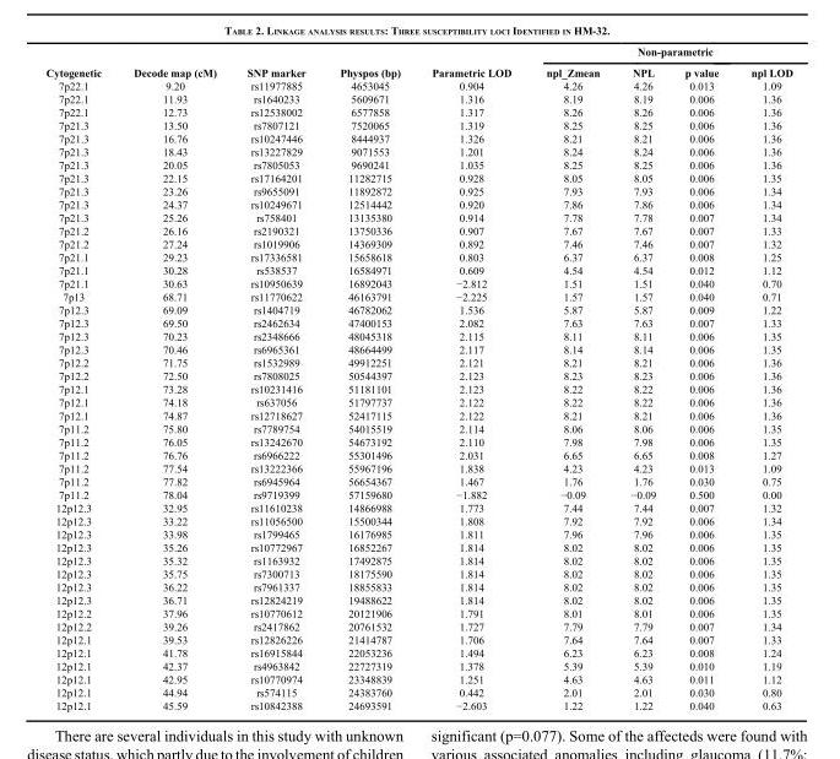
<table><thead><tr><td rowspan="2">Cytogenetic</td><td rowspan="2">Decode map (cM)</td><td rowspan="2">SNP marker</td><td rowspan="2">Physpos (bp)</td><td rowspan="2">Parametric LOD</td><td colspan="4">Non-parametric</td></tr><tr><td>npl_Zmean</td><td>NPL</td><td>p value</td><td>npl LOD</td></tr></thead><tbody><tr><td>7p22.1</td><td>9.20</td><td>rs11977885</td><td>4653045</td><td>0.904</td><td>4.26</td><td>4.26</td><td>0.013</td><td>1.09</td></tr><tr><td>7p22.1</td><td>11.93</td><td>rs1640233</td><td>5609671</td><td>1.316</td><td>8.19</td><td>8.19</td><td>0.006</td><td>1.36</td></tr><tr><td>7p22.1</td><td>12.73</td><td>rs12538002</td><td>6577858</td><td>1.317</td><td>8.26</td><td>8.26</td><td>0.006</td><td>1.36</td></tr><tr><td>7p21.3</td><td>13.50</td><td>rs7807121</td><td>7520065</td><td>1.319</td><td>8.25</td><td>8.25</td><td>0.006</td><td>1.36</td></tr><tr><td>7p21.3</td><td>16.76</td><td>rs10247446</td><td>8444937</td><td>1.326</td><td>8.21</td><td>8.21</td><td>0.006</td><td>1.36</td></tr><tr><td>7p21.3</td><td>18.43</td><td>rs13227829</td><td>9071553</td><td>1.201</td><td>8.24</td><td>8.24</td><td>0.006</td><td>1.36</td></tr><tr><td>7p21.3</td><td>20.05</td><td>rs7805053</td><td>9690241</td><td>1.035</td><td>8.25</td><td>8.25</td><td>0.006</td><td>1.36</td></tr><tr><td>7p21.3</td><td>22.15</td><td>rs17164201</td><td>11282715</td><td>0.928</td><td>8.05</td><td>8.05</td><td>0.006</td><td>1.35</td></tr><tr><td>7p21.3</td><td>23.26</td><td>rs9655091</td><td>11892872</td><td>0.925</td><td>7.93</td><td>7.93</td><td>0.006</td><td>1.34</td></tr><tr><td>7p21.3</td><td>24.37</td><td>rs10249671</td><td>12514442</td><td>0.920</td><td>7.86</td><td>7.86</td><td>0.006</td><td>1.34</td></tr><tr><td>7p21.3</td><td>25.26</td><td>rs758401</td><td>13135380</td><td>0.914</td><td>7.78</td><td>7.78</td><td>0.007</td><td>1.34</td></tr><tr><td>7p21.2</td><td>26.16</td><td>rs2190321</td><td>13750336</td><td>0.907</td><td>7.67</td><td>7.67</td><td>0.007</td><td>1.33</td></tr><tr><td>7p21.2</td><td>27.24</td><td>rs1019906</td><td>14369309</td><td>0.892</td><td>7.46</td><td>7.46</td><td>0.007</td><td>1.32</td></tr><tr><td>7p21.1</td><td>29.23</td><td>rs17336581</td><td>15658618</td><td>0.803</td><td>6.37</td><td>6.37</td><td>0.008</td><td>1.25</td></tr><tr><td>7p21.1</td><td>30.28</td><td>rs538537</td><td>16584971</td><td>0.609</td><td>4.54</td><td>4.54</td><td>0.012</td><td>1.12</td></tr><tr><td>7p21.1</td><td>30.63</td><td>rs10950639</td><td>16892043</td><td>−2.812</td><td>1.51</td><td>1.51</td><td>0.040</td><td>0.70</td></tr><tr><td>7p13</td><td>68.71</td><td>rs11770622</td><td>46163791</td><td>−2.225</td><td>1.57</td><td>1.57</td><td>0.040</td><td>0.71</td></tr><tr><td>7p12.3</td><td>69.09</td><td>rs1404719</td><td>46782062</td><td>1.536</td><td>5.87</td><td>5.87</td><td>0.009</td><td>1.22</td></tr><tr><td>7p12.3</td><td>69.50</td><td>rs2462634</td><td>47400153</td><td>2.082</td><td>7.63</td><td>7.63</td><td>0.007</td><td>1.33</td></tr><tr><td>7p12.3</td><td>70.23</td><td>rs2348666</td><td>48045318</td><td>2.115</td><td>8.11</td><td>8.11</td><td>0.006</td><td>1.35</td></tr><tr><td>7p12.3</td><td>70.46</td><td>rs6965361</td><td>48664499</td><td>2.117</td><td>8.14</td><td>8.14</td><td>0.006</td><td>1.35</td></tr><tr><td>7p12.2</td><td>71.75</td><td>rs1532989</td><td>49912251</td><td>2.121</td><td>8.21</td><td>8.21</td><td>0.006</td><td>1.36</td></tr><tr><td>7p12.2</td><td>72.50</td><td>rs7808025</td><td>50544397</td><td>2.123</td><td>8.23</td><td>8.23</td><td>0.006</td><td>1.36</td></tr><tr><td>7p12.1</td><td>73.28</td><td>rs10231416</td><td>51181101</td><td>2.123</td><td>8.22</td><td>8.22</td><td>0.006</td><td>1.36</td></tr><tr><td>7p12.1</td><td>74.18</td><td>rs637056</td><td>51797737</td><td>2.122</td><td>8.22</td><td>8.22</td><td>0.006</td><td>1.36</td></tr><tr><td>7p12.1</td><td>74.87</td><td>rs12718627</td><td>52417115</td><td>2.122</td><td>8.21</td><td>8.21</td><td>0.006</td><td>1.36</td></tr><tr><td>7p11.2</td><td>75.80</td><td>rs7789754</td><td>54015519</td><td>2.114</td><td>8.06</td><td>8.06</td><td>0.006</td><td>1.35</td></tr><tr><td>7p11.2</td><td>76.05</td><td>rs13242670</td><td>54673192</td><td>2.110</td><td>7.98</td><td>7.98</td><td>0.006</td><td>1.35</td></tr><tr><td>7p11.2</td><td>76.76</td><td>rs6966222</td><td>55301496</td><td>2.031</td><td>6.65</td><td>6.65</td><td>0.008</td><td>1.27</td></tr><tr><td>7p11.2</td><td>77.54</td><td>rs13222366</td><td>55967196</td><td>1.838</td><td>4.23</td><td>4.23</td><td>0.013</td><td>1.09</td></tr><tr><td>7p11.2</td><td>77.82</td><td>rs6945964</td><td>56654367</td><td>1.467</td><td>1.76</td><td>1.76</td><td>0.030</td><td>0.75</td></tr><tr><td>7p11.2</td><td>78.04</td><td>rs9719399</td><td>57159680</td><td>−1.882</td><td>−0.09</td><td>−0.09</td><td>0.500</td><td>0.00</td></tr><tr><td>12p12.3</td><td>32.95</td><td>rs11610238</td><td>14866988</td><td>1.773</td><td>7.44</td><td>7.44</td><td>0.007</td><td>1.32</td></tr><tr><td>12p12.3</td><td>33.22</td><td>rs11056500</td><td>15500344</td><td>1.808</td><td>7.92</td><td>7.92</td><td>0.006</td><td>1.34</td></tr><tr><td>12p12.3</td><td>33.98</td><td>rs1799465</td><td>16176985</td><td>1.811</td><td>7.96</td><td>7.96</td><td>0.006</td><td>1.35</td></tr><tr><td>12p12.3</td><td>35.26</td><td>rs10772967</td><td>16852267</td><td>1.814</td><td>8.02</td><td>8.02</td><td>0.006</td><td>1.35</td></tr><tr><td>12p12.3</td><td>35.32</td><td>rs1163932</td><td>17492875</td><td>1.814</td><td>8.02</td><td>8.02</td><td>0.006</td><td>1.35</td></tr><tr><td>12p12.3</td><td>35.75</td><td>rs7300713</td><td>18175590</td><td>1.814</td><td>8.02</td><td>8.02</td><td>0.006</td><td>1.35</td></tr><tr><td>12p12.3</td><td>36.22</td><td>rs7961337</td><td>18855833</td><td>1.814</td><td>8.02</td><td>8.02</td><td>0.006</td><td>1.35</td></tr><tr><td>12p12.3</td><td>36.71</td><td>rs12824219</td><td>19488622</td><td>1.814</td><td>8.02</td><td>8.02</td><td>0.006</td><td>1.35</td></tr><tr><td>12p12.2</td><td>37.96</td><td>rs10770612</td><td>20121906</td><td>1.791</td><td>8.01</td><td>8.01</td><td>0.006</td><td>1.35</td></tr><tr><td>12p12.2</td><td>39.26</td><td>rs2417862</td><td>20761532</td><td>1.727</td><td>7.79</td><td>7.79</td><td>0.007</td><td>1.34</td></tr><tr><td>12p12.1</td><td>39.53</td><td>rs12826226</td><td>21414787</td><td>1.706</td><td>7.64</td><td>7.64</td><td>0.007</td><td>1.33</td></tr><tr><td>12p12.1</td><td>41.78</td><td>rs16915844</td><td>22053236</td><td>1.494</td><td>6.23</td><td>6.23</td><td>0.008</td><td>1.24</td></tr><tr><td>12p12.1</td><td>42.37</td><td>rs4963842</td><td>22727319</td><td>1.378</td><td>5.39</td><td>5.39</td><td>0.010</td><td>1.19</td></tr><tr><td>12p12.1</td><td>42.95</td><td>rs10770974</td><td>23348839</td><td>1.251</td><td>4.63</td><td>4.63</td><td>0.011</td><td>1.12</td></tr><tr><td>12p12.1</td><td>44.94</td><td>rs574115</td><td>24383760</td><td>0.442</td><td>2.01</td><td>2.01</td><td>0.030</td><td>0.80</td></tr><tr><td>12p12.1</td><td>45.59</td><td>rs10842388</td><td>24693591</td><td>−2.603</td><td>1.22</td><td>1.22</td><td>0.040</td><td>0.63</td></tr></tbody></table>